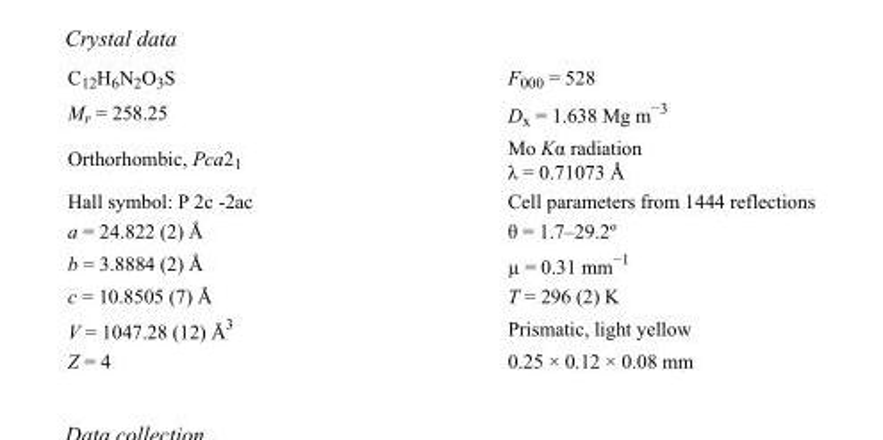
<table><tbody><tr><td>C<sub>12</sub>H<sub>6</sub>N<sub>2</sub>O<sub>3</sub>S</td><td>F<sub>000</sub> = 528</td></tr><tr><td>M<sub>r</sub> = 258.25</td><td>D<sub>x</sub> = 1.638 Mg m<sup>−3</sup></td></tr><tr><td>Orthorhombic, Pca2<sub>1</sub></td><td>Mo Kα radiation λ = 0.71073 Å</td></tr><tr><td>Hall symbol: P 2c -2ac</td><td>Cell parameters from 1444 reflections</td></tr><tr><td>a = 24.822 (2) Å</td><td>θ = 1.7–29.2º</td></tr><tr><td>b = 3.8884 (2) Å</td><td>µ = 0.31 mm<sup>−1</sup></td></tr><tr><td>c = 10.8505 (7) Å</td><td>T = 296 (2) K</td></tr><tr><td>V = 1047.28 (12) Å<sup>3</sup></td><td>Prismatic, light yellow</td></tr><tr><td>Z = 4</td><td>0.25 × 0.12 × 0.08 mm</td></tr></tbody></table>